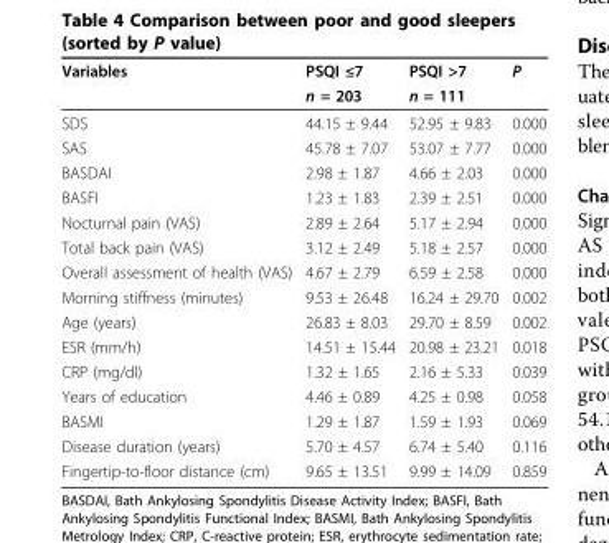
<table><thead><tr><td rowspan="2">Variables</td><td rowspan="2">PSQI ≤7 n = 203</td><td rowspan="2">PSQI &gt;7 n = 111</td><td rowspan="2">P</td></tr><tr></tr></thead><tbody><tr><td>SDS</td><td>44.15 ± 9.44</td><td>52.95 ± 9.83</td><td>0.000</td></tr><tr><td>SAS</td><td>45.78 ± 7.07</td><td>53.07 ± 7.77</td><td>0.000</td></tr><tr><td>BASDAI</td><td>2.98 ± 1.87</td><td>4.66 ± 2.03</td><td>0.000</td></tr><tr><td>BASFI</td><td>1.23 ± 1.83</td><td>2.39 ± 2.51</td><td>0.000</td></tr><tr><td>Nocturnal pain (VAS)</td><td>2.89 ± 2.64</td><td>5.17 ± 2.94</td><td>0.000</td></tr><tr><td>Total back pain (VAS)</td><td>3.12 ± 2.49</td><td>5.18 ± 2.57</td><td>0.000</td></tr><tr><td>Overall assessment of health (VAS)</td><td>4.67 ± 2.79</td><td>6.59 ± 2.58</td><td>0.000</td></tr><tr><td>Morning stiffness (minutes)</td><td>9.53 ± 26.48</td><td>16.24 ± 29.70</td><td>0.002</td></tr><tr><td>Age (years)</td><td>26.83 ± 8.03</td><td>29.70 ± 8.59</td><td>0.002</td></tr><tr><td>ESR (mm/h)</td><td>14.51 ± 15.44</td><td>20.98 ± 23.21</td><td>0.018</td></tr><tr><td>CRP (mg/dl)</td><td>1.32 ± 1.65</td><td>2.16 ± 5.33</td><td>0.039</td></tr><tr><td>Years of education</td><td>4.46 ± 0.89</td><td>4.25 ± 0.98</td><td>0.058</td></tr><tr><td>BASMI</td><td>1.29 ± 1.87</td><td>1.59 ± 1.93</td><td>0.069</td></tr><tr><td>Disease duration (years)</td><td>5.70 ± 4.57</td><td>6.74 ± 5.40</td><td>0.116</td></tr><tr><td>Fingertip-to-floor distance (cm)</td><td>9.65 ± 13.51</td><td>9.99 ± 14.09</td><td>0.859</td></tr></tbody></table>